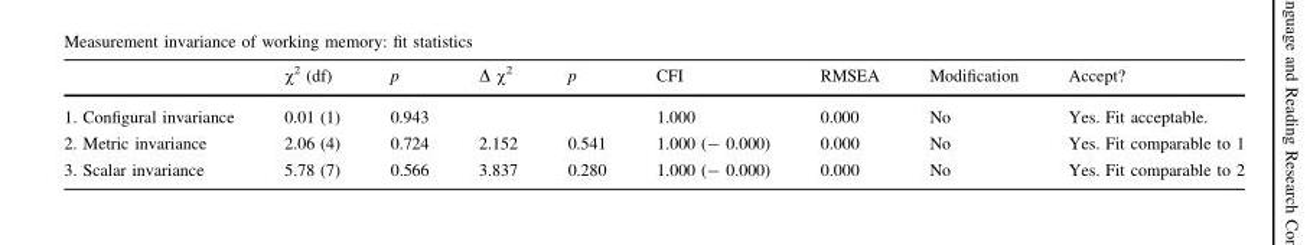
<table><thead><tr><td></td><td>χ<sup>2</sup> (df)</td><td>p</td><td>Δ χ<sup>2</sup></td><td>p</td><td>CFI</td><td>RMSEA</td><td>Modification</td><td>Accept?</td></tr></thead><tbody><tr><td>1. Configural invariance</td><td>0.01 (1)</td><td>0.943</td><td></td><td></td><td>1.000</td><td>0.000</td><td>No</td><td>Yes. Fit acceptable.</td></tr><tr><td>2. Metric invariance</td><td>2.06 (4)</td><td>0.724</td><td>2.152</td><td>0.541</td><td>1.000 (- 0.000)</td><td>0.000</td><td>No</td><td>Yes. Fit comparable to 1</td></tr><tr><td>3. Scalar invariance</td><td>5.78 (7)</td><td>0.566</td><td>3.837</td><td>0.280</td><td>1.000 (- 0.000)</td><td>0.000</td><td>No</td><td>Yes. Fit comparable to 2</td></tr></tbody></table>